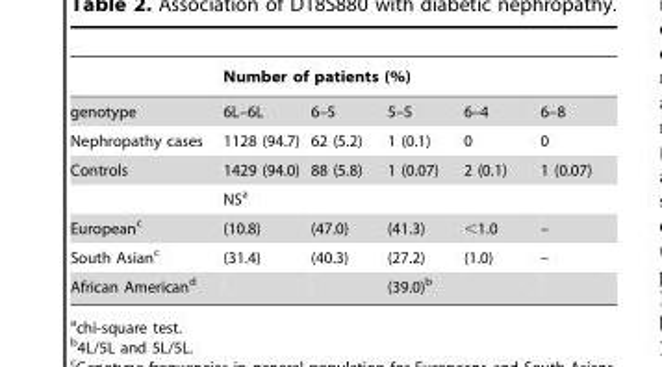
<table><thead><tr><td rowspan="2">genotype</td><td colspan="5">Number of patients (%)</td></tr><tr><td>6L–6L</td><td>6–5</td><td>5–5</td><td>6–4</td><td>6–8</td></tr></thead><tbody><tr><td>Nephropathy cases</td><td>1128 (94.7)</td><td>62 (5.2)</td><td>1 (0.1)</td><td>0</td><td>0</td></tr><tr><td rowspan="2">Controls</td><td>1429 (94.0)</td><td>88 (5.8)</td><td>1 (0.07)</td><td>2 (0.1)</td><td>1 (0.07)</td></tr><tr><td colspan="5">NS<sup>a</sup></td></tr><tr><td>European<sup>c</sup></td><td>(10.8)</td><td>(47.0)</td><td>(41.3)</td><td>&lt;1.0</td><td>–</td></tr><tr><td>South Asian<sup>c</sup></td><td>(31.4)</td><td>(40.3)</td><td>(27.2)</td><td>(1.0)</td><td>–</td></tr><tr><td>African American<sup>d</sup></td><td></td><td></td><td>(39.0)<sup>b</sup></td><td></td><td></td></tr></tbody></table>